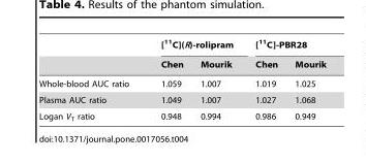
<table><thead><tr><td rowspan="2"></td><td colspan="2">[<sup>11</sup>C](R)-rolipram</td><td colspan="2">[<sup>11</sup>C]-PBR28</td></tr><tr><td>Chen</td><td>Mourik</td><td>Chen</td><td>Mourik</td></tr></thead><tbody><tr><td>Whole-blood AUC ratio</td><td>1.059</td><td>1.007</td><td>1.019</td><td>1.025</td></tr><tr><td>Plasma AUC ratio</td><td>1.049</td><td>1.007</td><td>1.027</td><td>1.068</td></tr><tr><td>Logan V<sub>T</sub> ratio</td><td>0.948</td><td>0.994</td><td>0.986</td><td>0.949</td></tr></tbody></table>